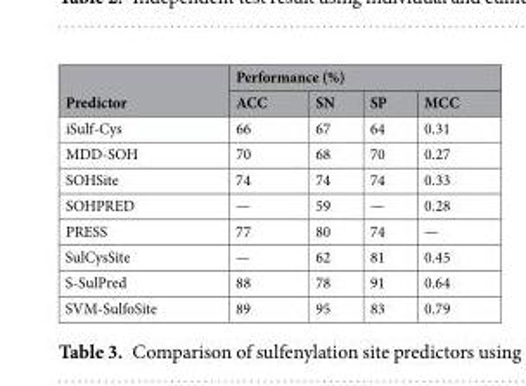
<table><thead><tr><td rowspan="2">Predictor</td><td colspan="4">Performance (%)</td></tr><tr><td>ACC</td><td>SN</td><td>SP</td><td>MCC</td></tr></thead><tbody><tr><td>iSulf-Cys</td><td>66</td><td>67</td><td>64</td><td>0.31</td></tr><tr><td>MDD-SOH</td><td>70</td><td>68</td><td>70</td><td>0.27</td></tr><tr><td>SOHSite</td><td>74</td><td>74</td><td>74</td><td>0.33</td></tr><tr><td>SOHPRED</td><td>—</td><td>59</td><td>—</td><td>0.28</td></tr><tr><td>PRESS</td><td>77</td><td>80</td><td>74</td><td>—</td></tr><tr><td>SulCysSite</td><td>—</td><td>62</td><td>81</td><td>0.45</td></tr><tr><td>S-SulPred</td><td>88</td><td>78</td><td>91</td><td>0.64</td></tr><tr><td>SVM-SulfoSite</td><td>89</td><td>95</td><td>83</td><td>0.79</td></tr></tbody></table>